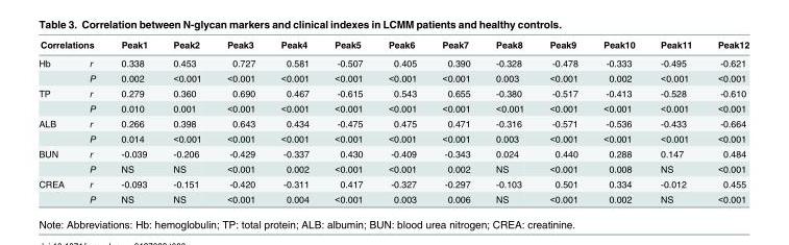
<table><thead><tr><td colspan="2">Correlations</td><td rowspan="2">Peak1 0.338</td><td rowspan="2">Peak2 0.453</td><td rowspan="2">Peak3 0.727</td><td rowspan="2">Peak4 0.581</td><td rowspan="2">Peak5 -0.507</td><td rowspan="2">Peak6 0.405</td><td rowspan="2">Peak7 0.390</td><td rowspan="2">Peak8 -0.328</td><td rowspan="2">Peak9 -0.478</td><td rowspan="2">Peak10 -0.333</td><td rowspan="2">Peak11 -0.495</td><td rowspan="2">Peak12 -0.621</td></tr><tr><td>Hb</td><td>r</td></tr></thead><tbody><tr><td></td><td>P</td><td>0.002</td><td>&lt;0.001</td><td>&lt;0.001</td><td>&lt;0.001</td><td>&lt;0.001</td><td>&lt;0.001</td><td>&lt;0.001</td><td>0.003</td><td>&lt;0.001</td><td>0.002</td><td>&lt;0.001</td><td>&lt;0.001</td></tr><tr><td rowspan="2">TP</td><td>r</td><td>0.279</td><td>0.360</td><td>0.690</td><td>0.467</td><td>-0.615</td><td>0.543</td><td>0.655</td><td>-0.380</td><td>-0.517</td><td>-0.413</td><td>-0.528</td><td>-0.610</td></tr><tr><td>P</td><td>0.010</td><td>0.001</td><td>&lt;0.001</td><td>&lt;0.001</td><td>&lt;0.001</td><td>&lt;0.001</td><td>&lt;0.001</td><td>&lt;0.001</td><td>&lt;0.001</td><td>&lt;0.001</td><td>&lt;0.001</td><td>&lt;0.001</td></tr><tr><td rowspan="2">ALB</td><td>r</td><td>0.266</td><td>0.398</td><td>0.643</td><td>0.434</td><td>-0.475</td><td>0.475</td><td>0.471</td><td>-0.316</td><td>-0.571</td><td>-0.536</td><td>-0.433</td><td>-0.664</td></tr><tr><td>P</td><td>0.014</td><td>&lt;0.001</td><td>&lt;0.001</td><td>&lt;0.001</td><td>&lt;0.001</td><td>&lt;0.001</td><td>&lt;0.001</td><td>0.003</td><td>&lt;0.001</td><td>&lt;0.001</td><td>&lt;0.001</td><td>&lt;0.001</td></tr><tr><td rowspan="2">BUN</td><td>r</td><td>-0.039</td><td>-0.206</td><td>-0.429</td><td>-0.337</td><td>0.430</td><td>-0.409</td><td>-0.343</td><td>0.024</td><td>0.440</td><td>0.288</td><td>0.147</td><td>0.484</td></tr><tr><td>P</td><td>NS</td><td>NS</td><td>&lt;0.001</td><td>0.002</td><td>&lt;0.001</td><td>&lt;0.001</td><td>0.002</td><td>NS</td><td>&lt;0.001</td><td>0.008</td><td>NS</td><td>&lt;0.001</td></tr><tr><td rowspan="2">CREA</td><td>r</td><td>-0.093</td><td>-0.151</td><td>-0.420</td><td>-0.311</td><td>0.417</td><td>-0.327</td><td>-0.297</td><td>-0.103</td><td>0.501</td><td>0.334</td><td>-0.012</td><td>0.455</td></tr><tr><td>P</td><td>NS</td><td>NS</td><td>&lt;0.001</td><td>0.004</td><td>&lt;0.001</td><td>0.003</td><td>0.006</td><td>NS</td><td>&lt;0.001</td><td>0.002</td><td>NS</td><td>&lt;0.001</td></tr></tbody></table>